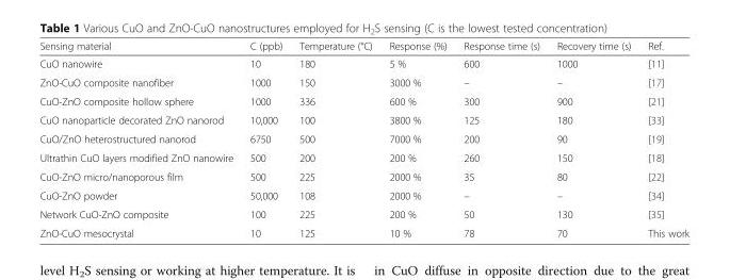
<table><thead><tr><td>Sensing material</td><td>C (ppb)</td><td>Temperature (°C)</td><td>Response (%)</td><td>Response time (s)</td><td>Recovery time (s)</td><td>Ref.</td></tr></thead><tbody><tr><td>CuO nanowire</td><td>10</td><td>180</td><td>5 %</td><td>600</td><td>1000</td><td>[11]</td></tr><tr><td>ZnO-CuO composite nanofiber</td><td>1000</td><td>150</td><td>3000 %</td><td>–</td><td>–</td><td>[17]</td></tr><tr><td>CuO-ZnO composite hollow sphere</td><td>1000</td><td>336</td><td>600 %</td><td>300</td><td>900</td><td>[21]</td></tr><tr><td>CuO nanoparticle decorated ZnO nanorod</td><td>10,000</td><td>100</td><td>3800 %</td><td>125</td><td>180</td><td>[33]</td></tr><tr><td>CuO/ZnO heterostructured nanorod</td><td>6750</td><td>500</td><td>7000 %</td><td>200</td><td>90</td><td>[19]</td></tr><tr><td>Ultrathin CuO layers modified ZnO nanowire</td><td>500</td><td>200</td><td>200 %</td><td>260</td><td>150</td><td>[18]</td></tr><tr><td>CuO-ZnO micro/nanoporous film</td><td>500</td><td>225</td><td>2000 %</td><td>35</td><td>80</td><td>[22]</td></tr><tr><td>CuO-ZnO powder</td><td>50,000</td><td>108</td><td>2000 %</td><td>–</td><td>–</td><td>[34]</td></tr><tr><td>Network CuO-ZnO composite</td><td>100</td><td>225</td><td>200 %</td><td>50</td><td>130</td><td>[35]</td></tr><tr><td>ZnO-CuO mesocrystal</td><td>10</td><td>125</td><td>10 %</td><td>78</td><td>70</td><td>This work</td></tr></tbody></table>